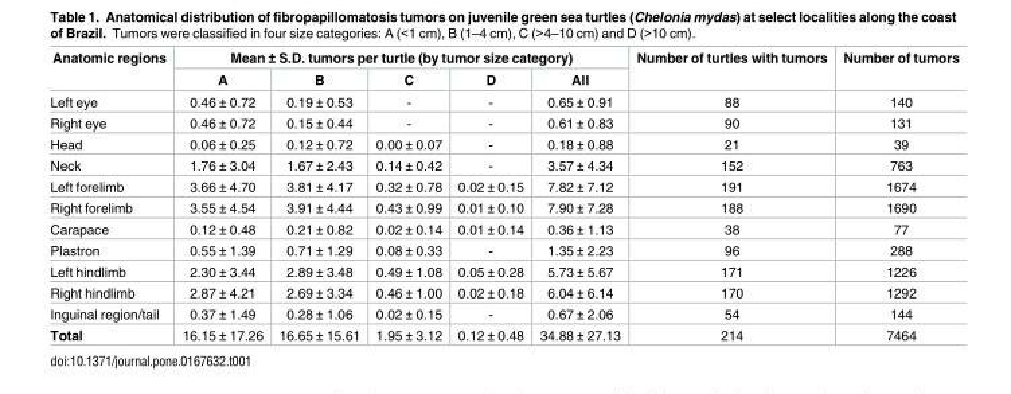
<table><thead><tr><td rowspan="2">Anatomic regions</td><td colspan="5">Mean ± S.D. tumors per turtle (by tumor size category)</td><td rowspan="2">Number of turtles with tumors</td><td rowspan="2">Number of tumors</td></tr><tr><td>A</td><td>B</td><td>C</td><td>D</td><td>All</td></tr></thead><tbody><tr><td>Left eye</td><td>0.46 ± 0.72</td><td>0.19 ± 0.53</td><td>-</td><td>-</td><td>0.65 ± 0.91</td><td>88</td><td>140</td></tr><tr><td>Right eye</td><td>0.46 ± 0.72</td><td>0.15 ± 0.44</td><td>-</td><td>-</td><td>0.61 ± 0.83</td><td>90</td><td>131</td></tr><tr><td>Head</td><td>0.06 ± 0.25</td><td>0.12 ± 0.72</td><td>0.00 ± 0.07</td><td>-</td><td>0.18 ± 0.88</td><td>21</td><td>39</td></tr><tr><td>Neck</td><td>1.76 ± 3.04</td><td>1.67 ± 2.43</td><td>0.14 ± 0.42</td><td>-</td><td>3.57 ± 4.34</td><td>152</td><td>763</td></tr><tr><td>Left forelimb</td><td>3.66 ± 4.70</td><td>3.81 ± 4.17</td><td>0.32 ± 0.78</td><td>0.02 ± 0.15</td><td>7.82 ± 7.12</td><td>191</td><td>1674</td></tr><tr><td>Right forelimb</td><td>3.55 ± 4.54</td><td>3.91 ± 4.44</td><td>0.43 ± 0.99</td><td>0.01 ± 0.10</td><td>7.90 ± 7.28</td><td>188</td><td>1690</td></tr><tr><td>Carapace</td><td>0.12 ± 0.48</td><td>0.21 ± 0.82</td><td>0.02 ± 0.14</td><td>0.01 ± 0.14</td><td>0.36 ± 1.13</td><td>38</td><td>77</td></tr><tr><td>Plastron</td><td>0.55 ± 1.39</td><td>0.71 ± 1.29</td><td>0.08 ± 0.33</td><td>-</td><td>1.35 ± 2.23</td><td>96</td><td>288</td></tr><tr><td>Left hindlimb</td><td>2.30 ± 3.44</td><td>2.89 ± 3.48</td><td>0.49 ± 1.08</td><td>0.05 ± 0.28</td><td>5.73 ± 5.67</td><td>171</td><td>1226</td></tr><tr><td>Right hindlimb</td><td>2.87 ± 4.21</td><td>2.69 ± 3.34</td><td>0.46 ± 1.00</td><td>0.02 ± 0.18</td><td>6.04 ± 6.14</td><td>170</td><td>1292</td></tr><tr><td>Inguinal region/tail</td><td>0.37 ± 1.49</td><td>0.28 ± 1.06</td><td>0.02 ± 0.15</td><td>-</td><td>0.67 ± 2.06</td><td>54</td><td>144</td></tr><tr><td>Total</td><td>16.15 ± 17.26</td><td>16.65 ± 15.61</td><td>1.95 ± 3.12</td><td>0.12 ± 0.48</td><td>34.88 ± 27.13</td><td>214</td><td>7464</td></tr></tbody></table>